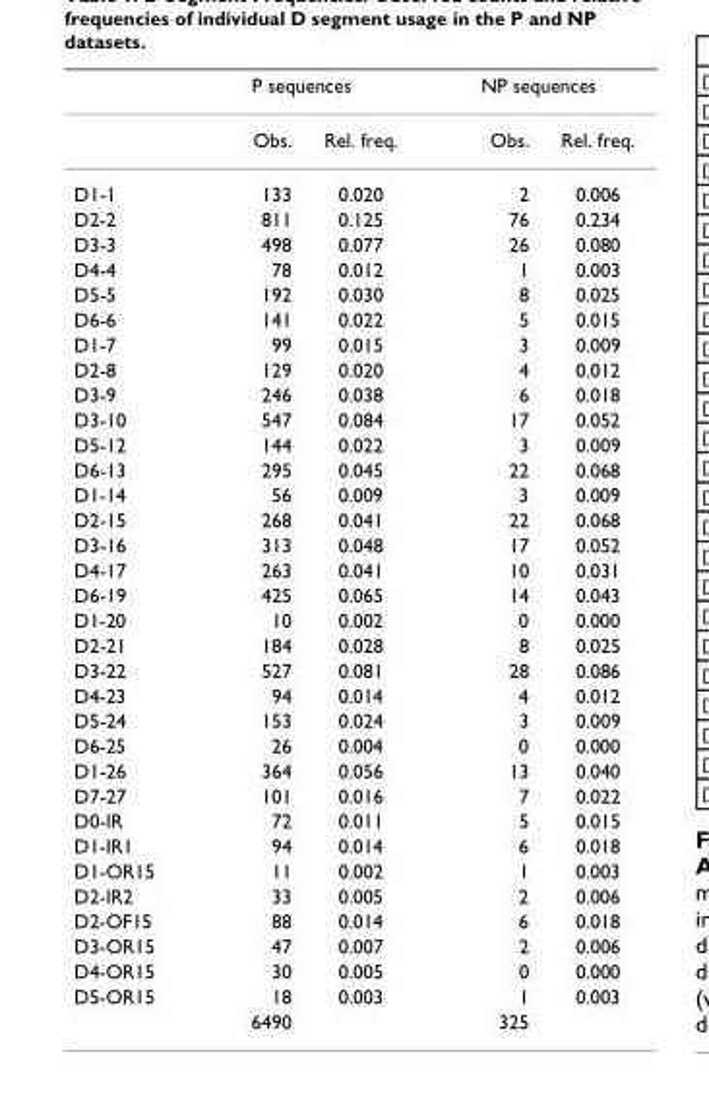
<table><thead><tr><td rowspan="2"></td><td colspan="2">P sequences</td><td colspan="2">NP sequences</td></tr><tr><td>Obs.</td><td>Rel. freq.</td><td>Obs.</td><td>Rel. freq.</td></tr></thead><tbody><tr><td>D1-1</td><td>133</td><td>0.020</td><td>2</td><td>0.006</td></tr><tr><td>D2-2</td><td>811</td><td>0.125</td><td>76</td><td>0.234</td></tr><tr><td>D3-3</td><td>498</td><td>0.077</td><td>26</td><td>0.080</td></tr><tr><td>D4-4</td><td>78</td><td>0.012</td><td>1</td><td>0.003</td></tr><tr><td>D5-5</td><td>192</td><td>0.030</td><td>8</td><td>0.025</td></tr><tr><td>D6-6</td><td>141</td><td>0.022</td><td>5</td><td>0.015</td></tr><tr><td>D1-7</td><td>99</td><td>0.015</td><td>3</td><td>0.009</td></tr><tr><td>D2-8</td><td>129</td><td>0.020</td><td>4</td><td>0.012</td></tr><tr><td>D3-9</td><td>246</td><td>0.038</td><td>6</td><td>0.018</td></tr><tr><td>D3-10</td><td>547</td><td>0.084</td><td>17</td><td>0.052</td></tr><tr><td>D5-12</td><td>144</td><td>0.022</td><td>3</td><td>0.009</td></tr><tr><td>D6-13</td><td>295</td><td>0.045</td><td>22</td><td>0.068</td></tr><tr><td>D1-14</td><td>56</td><td>0.009</td><td>3</td><td>0.009</td></tr><tr><td>D2-15</td><td>268</td><td>0.041</td><td>22</td><td>0.068</td></tr><tr><td>D3-16</td><td>313</td><td>0.048</td><td>17</td><td>0.052</td></tr><tr><td>D4-17</td><td>263</td><td>0.041</td><td>10</td><td>0.031</td></tr><tr><td>D6-19</td><td>425</td><td>0.065</td><td>14</td><td>0.043</td></tr><tr><td>D1-20</td><td>10</td><td>0.002</td><td>0</td><td>0.000</td></tr><tr><td>D2-21</td><td>184</td><td>0.028</td><td>8</td><td>0.025</td></tr><tr><td>D3-22</td><td>527</td><td>0.081</td><td>28</td><td>0.086</td></tr><tr><td>D4-23</td><td>94</td><td>0.014</td><td>4</td><td>0.012</td></tr><tr><td>D5-24</td><td>153</td><td>0.024</td><td>3</td><td>0.009</td></tr><tr><td>D6-25</td><td>26</td><td>0.004</td><td>0</td><td>0.000</td></tr><tr><td>D1-26</td><td>364</td><td>0.056</td><td>13</td><td>0.040</td></tr><tr><td>D7-27</td><td>101</td><td>0.016</td><td>7</td><td>0.022</td></tr><tr><td>D0-IR</td><td>72</td><td>0.011</td><td>5</td><td>0.015</td></tr><tr><td>D1-IR1</td><td>94</td><td>0.014</td><td>6</td><td>0.018</td></tr><tr><td>D1-OR15</td><td>11</td><td>0.002</td><td>1</td><td>0.003</td></tr><tr><td>D2-IR2</td><td>33</td><td>0.005</td><td>2</td><td>0.006</td></tr><tr><td>D2-OF15</td><td>88</td><td>0.014</td><td>6</td><td>0.018</td></tr><tr><td>D3-OR15</td><td>47</td><td>0.007</td><td>2</td><td>0.006</td></tr><tr><td>D4-OR15</td><td>30</td><td>0.005</td><td>0</td><td>0.000</td></tr><tr><td rowspan="2">D5-OR15</td><td>18</td><td>0.003</td><td>1</td><td>0.003</td></tr><tr><td>6490</td><td></td><td>325</td><td></td></tr></tbody></table>